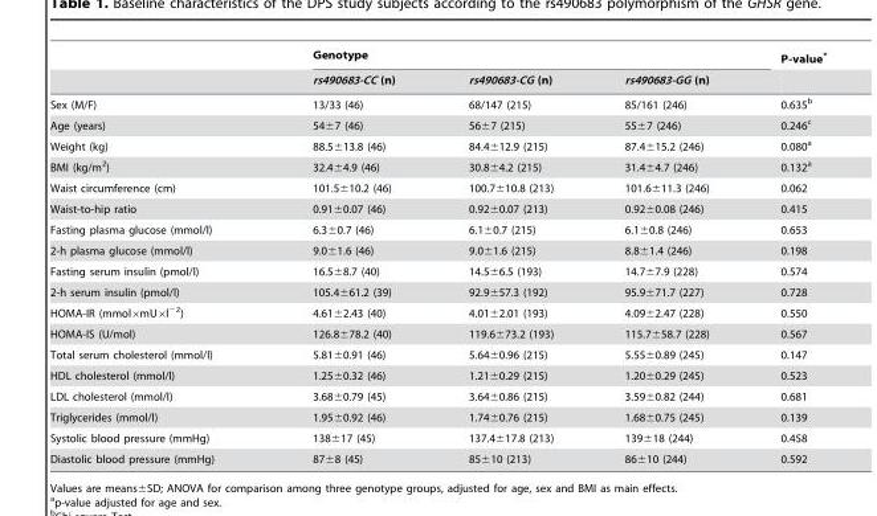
<table><thead><tr><td rowspan="2"></td><td colspan="3">Genotype</td><td rowspan="2">P-value*</td></tr><tr><td>rs490683-CC (n)</td><td>rs490683-CG (n)</td><td>rs490683-GG (n)</td></tr></thead><tbody><tr><td>Sex (M/F)</td><td>13/33 (46)</td><td>68/147 (215)</td><td>85/161 (246)</td><td>0.635<sup>b</sup></td></tr><tr><td>Age (years)</td><td>54±7 (46)</td><td>56±7 (215)</td><td>55±7 (246)</td><td>0.246<sup>c</sup></td></tr><tr><td>Weight (kg)</td><td>88.5±13.8 (46)</td><td>84.4±12.9 (215)</td><td>87.4±15.2 (246)</td><td>0.080<sup>a</sup></td></tr><tr><td>BMI (kg/m<sup>2</sup>)</td><td>32.4±4.9 (46)</td><td>30.8±4.2 (215)</td><td>31.4±4.7 (246)</td><td>0.132<sup>a</sup></td></tr><tr><td>Waist circumference (cm)</td><td>101.5±10.2 (46)</td><td>100.7±10.8 (213)</td><td>101.6±11.3 (246)</td><td>0.062</td></tr><tr><td>Waist-to-hip ratio</td><td>0.91±0.07 (46)</td><td>0.92±0.07 (213)</td><td>0.92±0.08 (246)</td><td>0.415</td></tr><tr><td>Fasting plasma glucose (mmol/l)</td><td>6.3±0.7 (46)</td><td>6.1±0.7 (215)</td><td>6.1±0.8 (246)</td><td>0.653</td></tr><tr><td>2-h plasma glucose (mmol/l)</td><td>9.0±1.6 (46)</td><td>9.0±1.6 (215)</td><td>8.8±1.4 (246)</td><td>0.198</td></tr><tr><td>Fasting serum insulin (pmol/l)</td><td>16.5±8.7 (40)</td><td>14.5±6.5 (193)</td><td>14.7±7.9 (228)</td><td>0.574</td></tr><tr><td>2-h serum insulin (pmol/l)</td><td>105.4±61.2 (39)</td><td>92.9±57.3 (192)</td><td>95.9±71.7 (227)</td><td>0.728</td></tr><tr><td>HOMA-IR (mmol×mU×l<sup>−2</sup>)</td><td>4.61±2.43 (40)</td><td>4.01±2.01 (193)</td><td>4.09±2.47 (228)</td><td>0.550</td></tr><tr><td>HOMA-IS (U/mol)</td><td>126.8±78.2 (40)</td><td>119.6±73.2 (193)</td><td>115.7±58.7 (228)</td><td>0.567</td></tr><tr><td>Total serum cholesterol (mmol/l)</td><td>5.81±0.91 (46)</td><td>5.64±0.96 (215)</td><td>5.55±0.89 (245)</td><td>0.147</td></tr><tr><td>HDL cholesterol (mmol/l)</td><td>1.25±0.32 (46)</td><td>1.21±0.29 (215)</td><td>1.20±0.29 (245)</td><td>0.523</td></tr><tr><td>LDL cholesterol (mmol/l)</td><td>3.68±0.79 (45)</td><td>3.64±0.86 (215)</td><td>3.59±0.82 (244)</td><td>0.681</td></tr><tr><td>Triglycerides (mmol/l)</td><td>1.95±0.92 (46)</td><td>1.74±0.76 (215)</td><td>1.68±0.75 (245)</td><td>0.139</td></tr><tr><td>Systolic blood pressure (mmHg)</td><td>138±17 (45)</td><td>137.4±17.8 (213)</td><td>139±18 (244)</td><td>0.458</td></tr><tr><td>Diastolic blood pressure (mmHg)</td><td>87±8 (45)</td><td>85±10 (213)</td><td>86±10 (244)</td><td>0.592</td></tr></tbody></table>